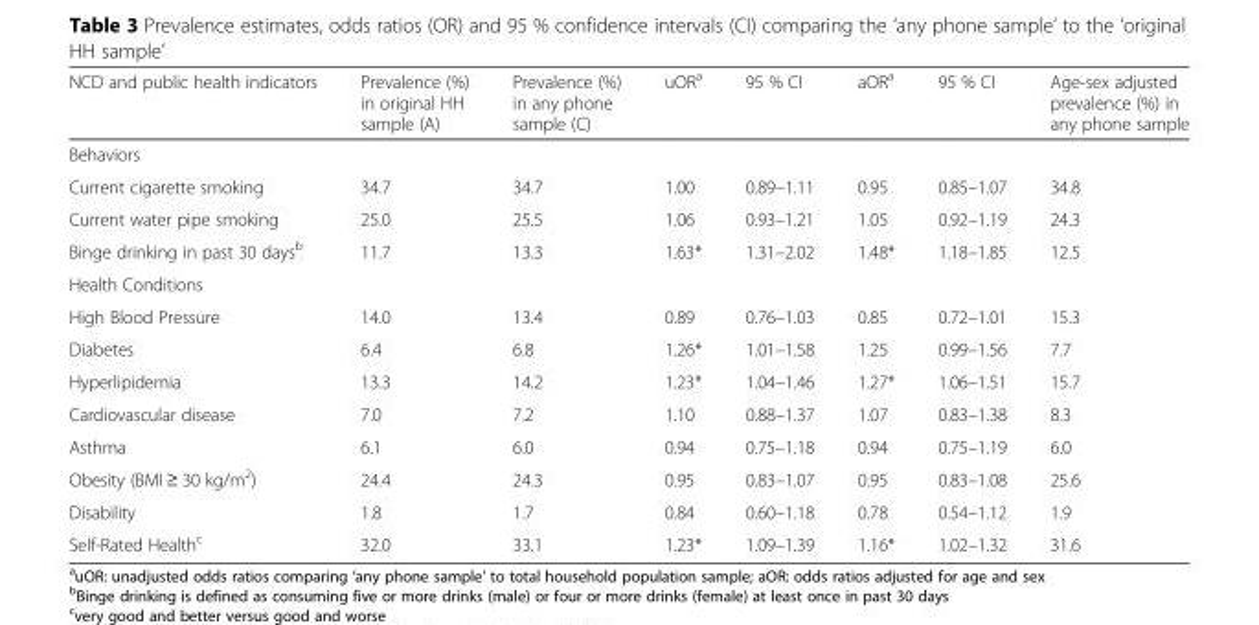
<table><thead><tr><td>NCD and public health indicators</td><td>Prevalence (%) in original HH sample (A)</td><td>Prevalence (%) in any phone sample (C)</td><td>uOR<sup>a</sup></td><td>95 % CI</td><td>aOR<sup>a</sup></td><td>95 % CI</td><td>Age-sex adjusted prevalence (%) in any phone sample</td></tr></thead><tbody><tr><td colspan="8">Behaviors</td></tr><tr><td>Current cigarette smoking</td><td>34.7</td><td>34.7</td><td>1.00</td><td>0.89–1.11</td><td>0.95</td><td>0.85–1.07</td><td>34.8</td></tr><tr><td>Current water pipe smoking</td><td>25.0</td><td>25.5</td><td>1.06</td><td>0.93–1.21</td><td>1.05</td><td>0.92–1.19</td><td>24.3</td></tr><tr><td>Binge drinking in past 30 days<sup>b</sup></td><td>11.7</td><td>13.3</td><td>1.63*</td><td>1.31–2.02</td><td>1.48*</td><td>1.18–1.85</td><td>12.5</td></tr><tr><td colspan="8">Health Conditions</td></tr><tr><td>High Blood Pressure</td><td>14.0</td><td>13.4</td><td>0.89</td><td>0.76–1.03</td><td>0.85</td><td>0.72–1.01</td><td>15.3</td></tr><tr><td>Diabetes</td><td>6.4</td><td>6.8</td><td>1.26*</td><td>1.01–1.58</td><td>1.25</td><td>0.99–1.56</td><td>7.7</td></tr><tr><td>Hyperlipidemia</td><td>13.3</td><td>14.2</td><td>1.23*</td><td>1.04–1.46</td><td>1.27*</td><td>1.06–1.51</td><td>15.7</td></tr><tr><td>Cardiovascular disease</td><td>7.0</td><td>7.2</td><td>1.10</td><td>0.88–1.37</td><td>1.07</td><td>0.83–1.38</td><td>8.3</td></tr><tr><td>Asthma</td><td>6.1</td><td>6.0</td><td>0.94</td><td>0.75–1.18</td><td>0.94</td><td>0.75–1.19</td><td>6.0</td></tr><tr><td>Obesity (BMI ≥ 30 kg/m<sup>2</sup>)</td><td>24.4</td><td>24.3</td><td>0.95</td><td>0.83–1.07</td><td>0.95</td><td>0.83–1.08</td><td>25.6</td></tr><tr><td>Disability</td><td>1.8</td><td>1.7</td><td>0.84</td><td>0.60–1.18</td><td>0.78</td><td>0.54–1.12</td><td>1.9</td></tr><tr><td>Self-Rated Health<sup>c</sup></td><td>32.0</td><td>33.1</td><td>1.23*</td><td>1.09–1.39</td><td>1.16*</td><td>1.02–1.32</td><td>31.6</td></tr></tbody></table>